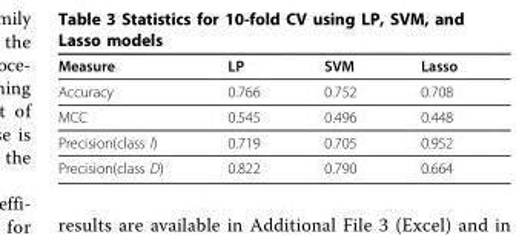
<table><thead><tr><td>Measure</td><td>LP</td><td>SVM</td><td>Lasso</td></tr></thead><tbody><tr><td>Accuracy</td><td>0.766</td><td>0.752</td><td>0.708</td></tr><tr><td>MCC</td><td>0.545</td><td>0.496</td><td>0.448</td></tr><tr><td>Precision(class I)</td><td>0.719</td><td>0.705</td><td>0.952</td></tr><tr><td>Precision(class D)</td><td>0.822</td><td>0.790</td><td>0.664</td></tr></tbody></table>